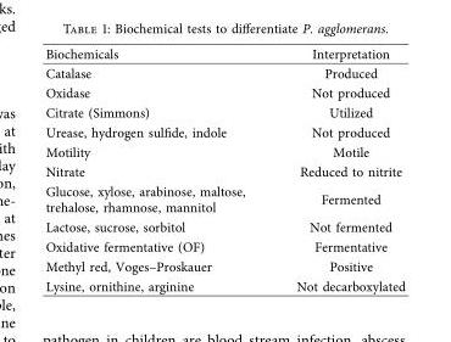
<table><thead><tr><td>Biochemicals</td><td>Interpretation</td></tr></thead><tbody><tr><td>Catalase</td><td>Produced</td></tr><tr><td>Oxidase</td><td>Not produced</td></tr><tr><td>Citrate (Simmons)</td><td>Utilized</td></tr><tr><td>Urease, hydrogen sulfde, indole</td><td>Not produced</td></tr><tr><td>Motility</td><td>Motile</td></tr><tr><td>Nitrate</td><td>Reduced to nitrite</td></tr><tr><td>Glucose, xylose, arabinose, maltose, trehalose, rhamnose, mannitol</td><td>Fermented</td></tr><tr><td>Lactose, sucrose, sorbitol</td><td>Not fermented</td></tr><tr><td>Oxidative fermentative (OF)</td><td>Fermentative</td></tr><tr><td>Methyl red, Voges–Proskauer</td><td>Positive</td></tr><tr><td>Lysine, ornithine, arginine</td><td>Not decarboxylated</td></tr></tbody></table>